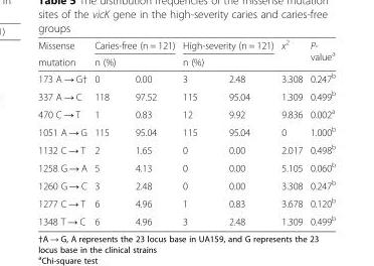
<table><thead><tr><td rowspan="3">Missense mutation 173 A → G†</td><td rowspan="2" colspan="2">Caries-free (n = 121) n (%)</td><td rowspan="2" colspan="2">High-severity (n = 121) n (%)</td><td rowspan="3">x<sup>2</sup> 3.308</td><td rowspan="3">P- value<sup>a</sup> 0.247<sup>b</sup></td></tr><tr></tr><tr><td>0</td><td>0.00</td><td>3</td><td>2.48</td></tr></thead><tbody><tr><td>337 A → C</td><td>118</td><td>97.52</td><td>115</td><td>95.04</td><td>1.309</td><td>0.499<sup>b</sup></td></tr><tr><td>470 C → T</td><td>1</td><td>0.83</td><td>12</td><td>9.92</td><td>9.836</td><td>0.002<sup>a</sup></td></tr><tr><td>1051 A → G</td><td>115</td><td>95.04</td><td>115</td><td>95.04</td><td>0</td><td>1.000<sup>b</sup></td></tr><tr><td>1132 C → T</td><td>2</td><td>1.65</td><td>0</td><td>0.00</td><td>2.017</td><td>0.498<sup>b</sup></td></tr><tr><td>1258 G → A</td><td>5</td><td>4.13</td><td>0</td><td>0.00</td><td>5.105</td><td>0.060<sup>b</sup></td></tr><tr><td>1260 G → C</td><td>3</td><td>2.48</td><td>0</td><td>0.00</td><td>3.308</td><td>0.247<sup>b</sup></td></tr><tr><td>1277 C → T</td><td>6</td><td>4.96</td><td>1</td><td>0.83</td><td>3.678</td><td>0.120<sup>b</sup></td></tr><tr><td>1348 T → C</td><td>6</td><td>4.96</td><td>3</td><td>2.48</td><td>1.309</td><td>0.499<sup>b</sup></td></tr></tbody></table>